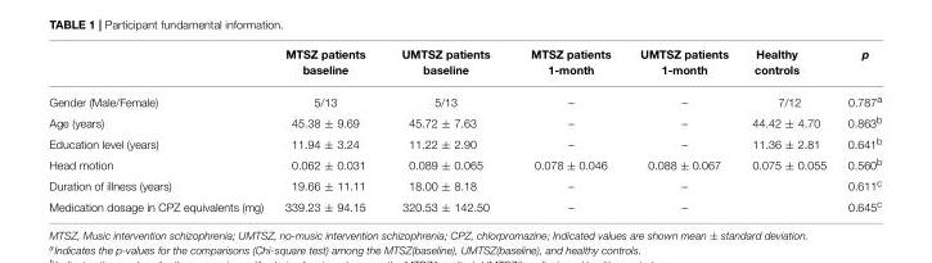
<table><thead><tr><td></td><td>MTSZ patients baseline</td><td>UMTSZ patients baseline</td><td>MTSZ patients 1-month</td><td>UMTSZ patients 1-month</td><td>Healthy controls</td><td>p</td></tr></thead><tbody><tr><td>Gender (Male/Female)</td><td>5/13</td><td>5/13</td><td>–</td><td>–</td><td>7/12</td><td>0.787<sup>a</sup></td></tr><tr><td>Age (years)</td><td>45.38 ± 9.69</td><td>45.72 ± 7.63</td><td>–</td><td>–</td><td>44.42 ± 4.70</td><td>0.863<sup>b</sup></td></tr><tr><td>Education level (years)</td><td>11.94 ± 3.24</td><td>11.22 ± 2.90</td><td>–</td><td>–</td><td>11.36 ± 2.81</td><td>0.641<sup>b</sup></td></tr><tr><td>Head motion</td><td>0.062 ± 0.031</td><td>0.089 ± 0.065</td><td>0.078 ± 0.046</td><td>0.088 ± 0.067</td><td>0.075 ± 0.055</td><td>0.560<sup>b</sup></td></tr><tr><td>Duration of illness (years)</td><td>19.66 ± 11.11</td><td>18.00 ± 8.18</td><td>–</td><td>–</td><td></td><td>0.611<sup>c</sup></td></tr><tr><td>Medication dosage in CPZ equivalents (mg)</td><td>339.23 ± 94.15</td><td>320.53 ± 142.50</td><td>–</td><td>–</td><td></td><td>0.645<sup>c</sup></td></tr></tbody></table>